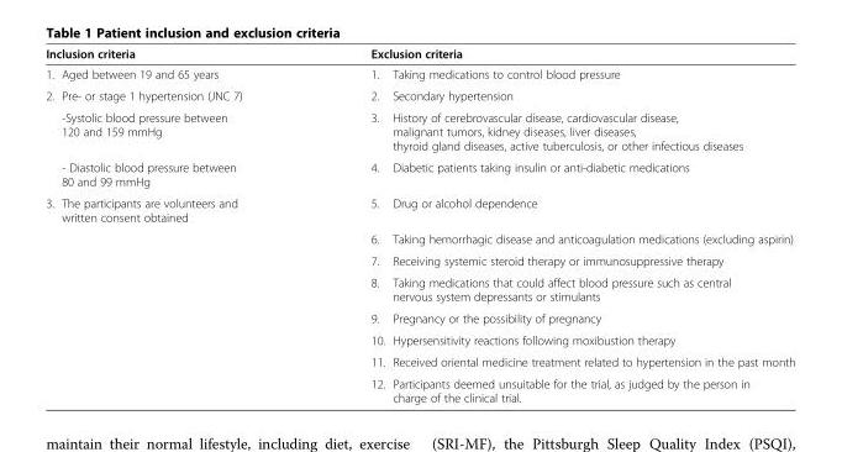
<table><thead><tr><td colspan="2">Inclusion criteria</td><td colspan="2">Exclusion criteria</td></tr><tr><td>1.</td><td>Aged between 19 and 65 years</td><td>1.</td><td>Taking medications to control blood pressure</td></tr></thead><tbody><tr><td rowspan="3">2.</td><td>Pre- or stage 1 hypertension (JNC 7)</td><td>2.</td><td>Secondary hypertension</td></tr><tr><td>-Systolic blood pressure between 120 and 159 mmHg</td><td>3.</td><td>History of cerebrovascular disease, cardiovascular disease, malignant tumors, kidney diseases, liver diseases, thyroid gland diseases, active tuberculosis, or other infectious diseases</td></tr><tr><td>- Diastolic blood pressure between 80 and 99 mmHg</td><td>4.</td><td>Diabetic patients taking insulin or anti-diabetic medications</td></tr><tr><td rowspan="8">3.</td><td>The participants are volunteers and written consent obtained</td><td>5.</td><td>Drug or alcohol dependence</td></tr><tr><td></td><td>6.</td><td>Taking hemorrhagic disease and anticoagulation medications (excluding aspirin)</td></tr><tr><td></td><td>7.</td><td>Receiving systemic steroid therapy or immunosuppressive therapy</td></tr><tr><td></td><td>8.</td><td>Taking medications that could affect blood pressure such as central nervous system depressants or stimulants</td></tr><tr><td></td><td>9.</td><td>Pregnancy or the possibility of pregnancy</td></tr><tr><td></td><td>10.</td><td>Hypersensitivity reactions following moxibustion therapy</td></tr><tr><td></td><td>11.</td><td>Received oriental medicine treatment related to hypertension in the past month</td></tr><tr><td></td><td>12.</td><td>Participants deemed unsuitable for the trial, as judged by the person in charge of the clinical trial.</td></tr></tbody></table>